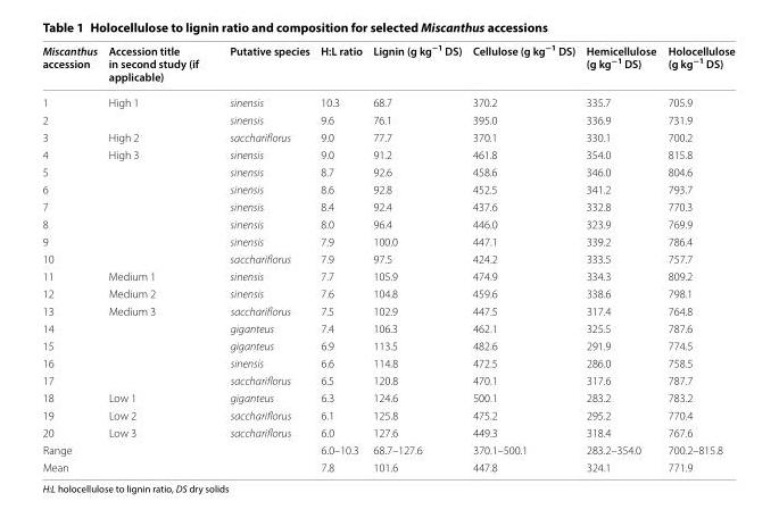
<table><thead><tr><td>Miscanthus accession</td><td>Accession title in second study (if applicable)</td><td>Putative species</td><td>H:L ratio</td><td>Lignin (g kg<sup>−1</sup> DS)</td><td>Cellulose (g kg<sup>−1</sup> DS)</td><td>Hemicellulose (g kg<sup>−1</sup> DS)</td><td>Holocellulose (g kg<sup>−1</sup> DS)</td></tr></thead><tbody><tr><td>1</td><td>High 1</td><td>sinensis</td><td>10.3</td><td>68.7</td><td>370.2</td><td>335.7</td><td>705.9</td></tr><tr><td>2</td><td></td><td>sinensis</td><td>9.6</td><td>76.1</td><td>395.0</td><td>336.9</td><td>731.9</td></tr><tr><td>3</td><td>High 2</td><td>sacchariflorus</td><td>9.0</td><td>77.7</td><td>370.1</td><td>330.1</td><td>700.2</td></tr><tr><td>4</td><td>High 3</td><td>sinensis</td><td>9.0</td><td>91.2</td><td>461.8</td><td>354.0</td><td>815.8</td></tr><tr><td>5</td><td></td><td>sinensis</td><td>8.7</td><td>92.6</td><td>458.6</td><td>346.0</td><td>804.6</td></tr><tr><td>6</td><td></td><td>sinensis</td><td>8.6</td><td>92.8</td><td>452.5</td><td>341.2</td><td>793.7</td></tr><tr><td>7</td><td></td><td>sinensis</td><td>8.4</td><td>92.4</td><td>437.6</td><td>332.8</td><td>770.3</td></tr><tr><td>8</td><td></td><td>sinensis</td><td>8.0</td><td>96.4</td><td>446.0</td><td>323.9</td><td>769.9</td></tr><tr><td>9</td><td></td><td>sinensis</td><td>7.9</td><td>100.0</td><td>447.1</td><td>339.2</td><td>786.4</td></tr><tr><td>10</td><td></td><td>sacchariflorus</td><td>7.9</td><td>97.5</td><td>424.2</td><td>333.5</td><td>757.7</td></tr><tr><td>11</td><td>Medium 1</td><td>sinensis</td><td>7.7</td><td>105.9</td><td>474.9</td><td>334.3</td><td>809.2</td></tr><tr><td>12</td><td>Medium 2</td><td>sinensis</td><td>7.6</td><td>104.8</td><td>459.6</td><td>338.6</td><td>798.1</td></tr><tr><td>13</td><td>Medium 3</td><td>sacchariflorus</td><td>7.5</td><td>102.9</td><td>447.5</td><td>317.4</td><td>764.8</td></tr><tr><td>14</td><td></td><td>giganteus</td><td>7.4</td><td>106.3</td><td>462.1</td><td>325.5</td><td>787.6</td></tr><tr><td>15</td><td></td><td>giganteus</td><td>6.9</td><td>113.5</td><td>482.6</td><td>291.9</td><td>774.5</td></tr><tr><td>16</td><td></td><td>sinensis</td><td>6.6</td><td>114.8</td><td>472.5</td><td>286.0</td><td>758.5</td></tr><tr><td>17</td><td></td><td>sacchariflorus</td><td>6.5</td><td>120.8</td><td>470.1</td><td>317.6</td><td>787.7</td></tr><tr><td>18</td><td>Low 1</td><td>giganteus</td><td>6.3</td><td>124.6</td><td>500.1</td><td>283.2</td><td>783.2</td></tr><tr><td>19</td><td>Low 2</td><td>sacchariflorus</td><td>6.1</td><td>125.8</td><td>475.2</td><td>295.2</td><td>770.4</td></tr><tr><td>20</td><td>Low 3</td><td>sacchariflorus</td><td>6.0</td><td>127.6</td><td>449.3</td><td>318.4</td><td>767.6</td></tr><tr><td>Range</td><td></td><td></td><td>6.0–10.3</td><td>68.7–127.6</td><td>370.1–500.1</td><td>283.2–354.0</td><td>700.2–815.8</td></tr><tr><td>Mean</td><td></td><td></td><td>7.8</td><td>101.6</td><td>447.8</td><td>324.1</td><td>771.9</td></tr></tbody></table>